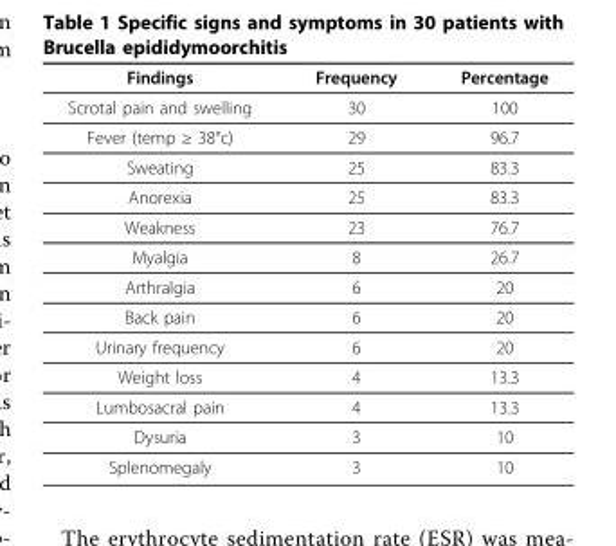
<table><thead><tr><td>Findings</td><td>Frequency</td><td>Percentage</td></tr></thead><tbody><tr><td>Scrotal pain and swelling</td><td>30</td><td>100</td></tr><tr><td>Fever (temp ≥ 38°c)</td><td>29</td><td>96.7</td></tr><tr><td>Sweating</td><td>25</td><td>83.3</td></tr><tr><td>Anorexia</td><td>25</td><td>83.3</td></tr><tr><td>Weakness</td><td>23</td><td>76.7</td></tr><tr><td>Myalgia</td><td>8</td><td>26.7</td></tr><tr><td>Arthralgia</td><td>6</td><td>20</td></tr><tr><td>Back pain</td><td>6</td><td>20</td></tr><tr><td>Urinary frequency</td><td>6</td><td>20</td></tr><tr><td>Weight loss</td><td>4</td><td>13.3</td></tr><tr><td>Lumbosacral pain</td><td>4</td><td>13.3</td></tr><tr><td>Dysuria</td><td>3</td><td>10</td></tr><tr><td>Splenomegaly</td><td>3</td><td>10</td></tr></tbody></table>